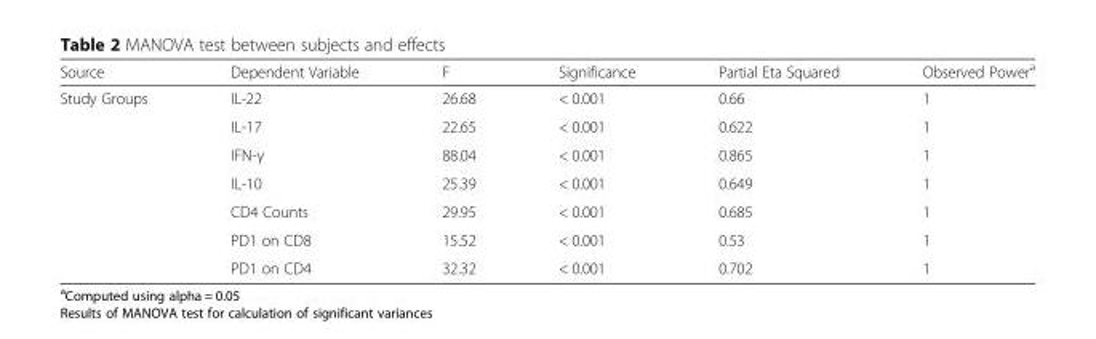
<table><thead><tr><td>Source</td><td>Dependent Variable</td><td>F</td><td>Significance</td><td>Partial Eta Squared</td><td>Observed Power<sup>a</sup></td></tr></thead><tbody><tr><td rowspan="7">Study Groups</td><td>IL-22</td><td>26.68</td><td>&lt; 0.001</td><td>0.66</td><td>1</td></tr><tr><td>IL-17</td><td>22.65</td><td>&lt; 0.001</td><td>0.622</td><td>1</td></tr><tr><td>IFN-γ</td><td>88.04</td><td>&lt; 0.001</td><td>0.865</td><td>1</td></tr><tr><td>IL-10</td><td>25.39</td><td>&lt; 0.001</td><td>0.649</td><td>1</td></tr><tr><td>CD4 Counts</td><td>29.95</td><td>&lt; 0.001</td><td>0.685</td><td>1</td></tr><tr><td>PD1 on CD8</td><td>15.52</td><td>&lt; 0.001</td><td>0.53</td><td>1</td></tr><tr><td>PD1 on CD4</td><td>32.32</td><td>&lt; 0.001</td><td>0.702</td><td>1</td></tr></tbody></table>